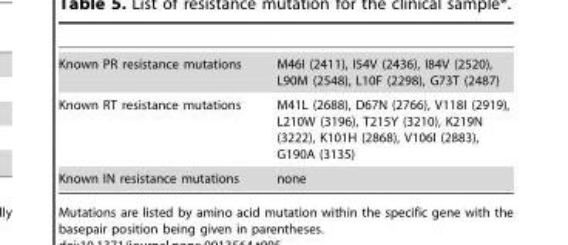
<table><tbody><tr><td>Known PR resistance mutations</td><td>M46I (2411), I54V (2436), I84V (2520), L90M (2548), L10F (2298), G73T (2487)</td></tr><tr><td>Known RT resistance mutations</td><td>M41L (2688), D67N (2766), V118I (2919), L210W (3196), T215Y (3210), K219N (3222), K101H (2868), V106I (2883), G190A (3135)</td></tr><tr><td>Known IN resistance mutations</td><td>none</td></tr></tbody></table>